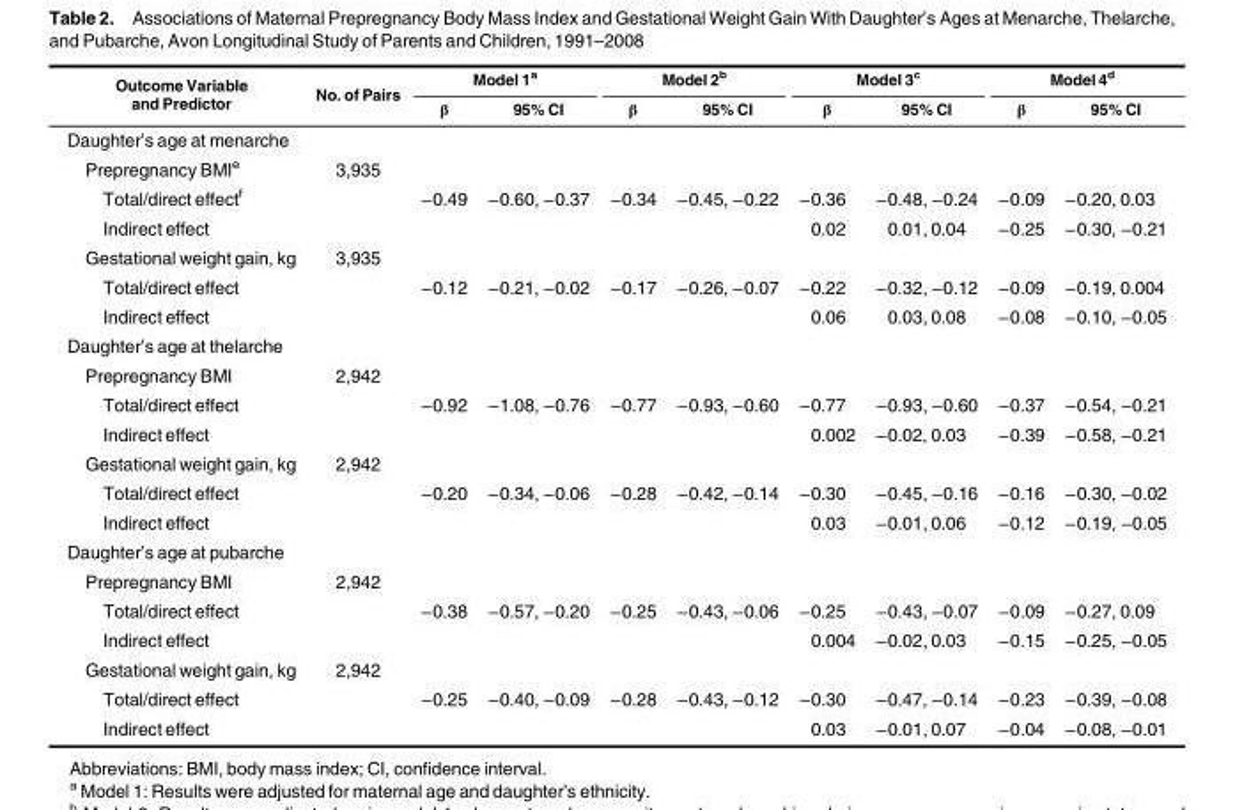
<table><thead><tr><td rowspan="2">Outcome Variable and Predictor</td><td rowspan="2">No. of Pairs</td><td colspan="2">Model 1<sup>a</sup></td><td colspan="2">Model 2<sup>b</sup></td><td colspan="2">Model 3<sup>c</sup></td><td colspan="2">Model 4<sup>d</sup></td></tr><tr><td>β</td><td>95% CI</td><td>β</td><td>95% CI</td><td>β</td><td>95% CI</td><td>β</td><td>95% CI</td></tr></thead><tbody><tr><td colspan="10">Daughter’s age at menarche</td></tr><tr><td>Prepregnancy BMI<sup>e</sup></td><td>3,935</td><td></td><td></td><td></td><td></td><td></td><td></td><td></td><td></td></tr><tr><td>Total/direct effect<sup>f</sup></td><td></td><td>−0.49</td><td>−0.60, −0.37</td><td>−0.34</td><td>−0.45, −0.22</td><td>−0.36</td><td>−0.48, −0.24</td><td>−0.09</td><td>−0.20, 0.03</td></tr><tr><td>Indirect effect</td><td></td><td></td><td></td><td></td><td></td><td>0.02</td><td>0.01, 0.04</td><td>−0.25</td><td>−0.30, −0.21</td></tr><tr><td>Gestational weight gain, kg</td><td>3,935</td><td></td><td></td><td></td><td></td><td></td><td></td><td></td><td></td></tr><tr><td>Total/direct effect</td><td></td><td>−0.12</td><td>−0.21, −0.02</td><td>−0.17</td><td>−0.26, −0.07</td><td>−0.22</td><td>−0.32, −0.12</td><td>−0.09</td><td>−0.19, 0.004</td></tr><tr><td>Indirect effect</td><td></td><td></td><td></td><td></td><td></td><td>0.06</td><td>0.03, 0.08</td><td>−0.08</td><td>−0.10, −0.05</td></tr><tr><td colspan="10">Daughter’s age at thelarche</td></tr><tr><td>Prepregnancy BMI</td><td>2,942</td><td></td><td></td><td></td><td></td><td></td><td></td><td></td><td></td></tr><tr><td>Total/direct effect</td><td></td><td>−0.92</td><td>−1.08, −0.76</td><td>−0.77</td><td>−0.93, −0.60</td><td>−0.77</td><td>−0.93, −0.60</td><td>−0.37</td><td>−0.54, −0.21</td></tr><tr><td>Indirect effect</td><td></td><td></td><td></td><td></td><td></td><td>0.002</td><td>−0.02, 0.03</td><td>−0.39</td><td>−0.58, −0.21</td></tr><tr><td>Gestational weight gain, kg</td><td>2,942</td><td></td><td></td><td></td><td></td><td></td><td></td><td></td><td></td></tr><tr><td>Total/direct effect</td><td></td><td>−0.20</td><td>−0.34, −0.06</td><td>−0.28</td><td>−0.42, −0.14</td><td>−0.30</td><td>−0.45, −0.16</td><td>−0.16</td><td>−0.30, −0.02</td></tr><tr><td>Indirect effect</td><td></td><td></td><td></td><td></td><td></td><td>0.03</td><td>−0.01, 0.06</td><td>−0.12</td><td>−0.19, −0.05</td></tr><tr><td colspan="10">Daughter’s age at pubarche</td></tr><tr><td>Prepregnancy BMI</td><td>2,942</td><td></td><td></td><td></td><td></td><td></td><td></td><td></td><td></td></tr><tr><td>Total/direct effect</td><td></td><td>−0.38</td><td>−0.57, −0.20</td><td>−0.25</td><td>−0.43, −0.06</td><td>−0.25</td><td>−0.43, −0.07</td><td>−0.09</td><td>−0.27, 0.09</td></tr><tr><td>Indirect effect</td><td></td><td></td><td></td><td></td><td></td><td>0.004</td><td>−0.02, 0.03</td><td>−0.15</td><td>−0.25, −0.05</td></tr><tr><td>Gestational weight gain, kg</td><td>2,942</td><td></td><td></td><td></td><td></td><td></td><td></td><td></td><td></td></tr><tr><td>Total/direct effect</td><td></td><td>−0.25</td><td>−0.40, −0.09</td><td>−0.28</td><td>−0.43, −0.12</td><td>−0.30</td><td>−0.47, −0.14</td><td>−0.23</td><td>−0.39, −0.08</td></tr><tr><td>Indirect effect</td><td></td><td></td><td></td><td></td><td></td><td>0.03</td><td>−0.01, 0.07</td><td>−0.04</td><td>−0.08, −0.01</td></tr></tbody></table>